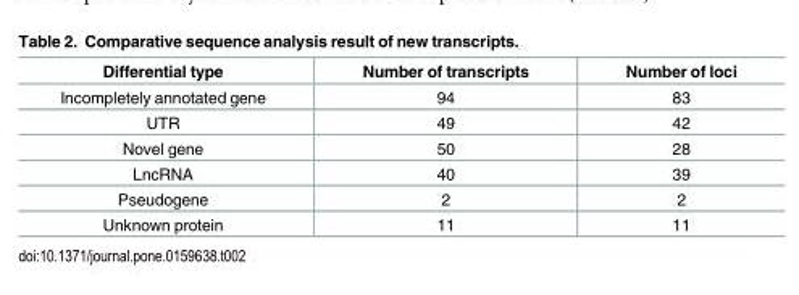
<table><thead><tr><td>Differential type</td><td>Number of transcripts</td><td>Number of loci</td></tr></thead><tbody><tr><td>Incompletely annotated gene</td><td>94</td><td>83</td></tr><tr><td>UTR</td><td>49</td><td>42</td></tr><tr><td>Novel gene</td><td>50</td><td>28</td></tr><tr><td>LncRNA</td><td>40</td><td>39</td></tr><tr><td>Pseudogene</td><td>2</td><td>2</td></tr><tr><td>Unknown protein</td><td>11</td><td>11</td></tr></tbody></table>